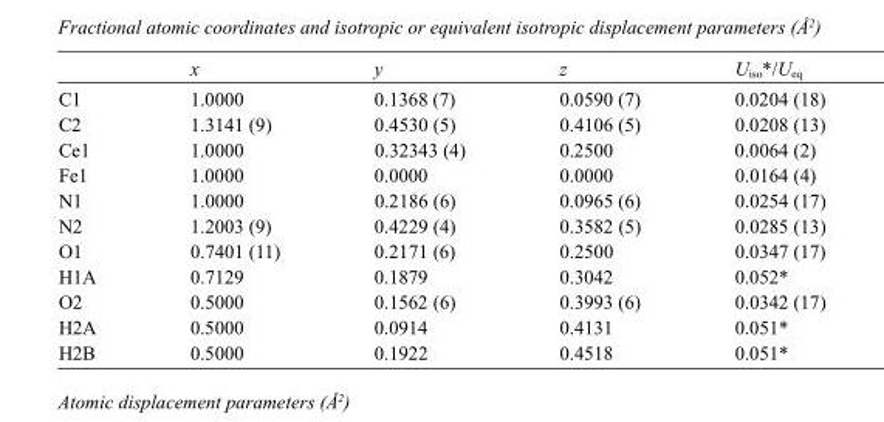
<table><thead><tr><td></td><td>x</td><td>y</td><td>z</td><td>U<sub>iso</sub>*/U<sub>eq</sub></td></tr></thead><tbody><tr><td>C1</td><td>1.0000</td><td>0.1368 (7)</td><td>0.0590 (7)</td><td>0.0204 (18)</td></tr><tr><td>C2</td><td>1.3141 (9)</td><td>0.4530 (5)</td><td>0.4106 (5)</td><td>0.0208 (13)</td></tr><tr><td>Ce1</td><td>1.0000</td><td>0.32343 (4)</td><td>0.2500</td><td>0.0064 (2)</td></tr><tr><td>Fe1</td><td>1.0000</td><td>0.0000</td><td>0.0000</td><td>0.0164 (4)</td></tr><tr><td>N1</td><td>1.0000</td><td>0.2186 (6)</td><td>0.0965 (6)</td><td>0.0254 (17)</td></tr><tr><td>N2</td><td>1.2003 (9)</td><td>0.4229 (4)</td><td>0.3582 (5)</td><td>0.0285 (13)</td></tr><tr><td>O1</td><td>0.7401 (11)</td><td>0.2171 (6)</td><td>0.2500</td><td>0.0347 (17)</td></tr><tr><td>H1A</td><td>0.7129</td><td>0.1879</td><td>0.3042</td><td>0.052*</td></tr><tr><td>O2</td><td>0.5000</td><td>0.1562 (6)</td><td>0.3993 (6)</td><td>0.0342 (17)</td></tr><tr><td>H2A</td><td>0.5000</td><td>0.0914</td><td>0.4131</td><td>0.051*</td></tr><tr><td>H2B</td><td>0.5000</td><td>0.1922</td><td>0.4518</td><td>0.051*</td></tr></tbody></table>